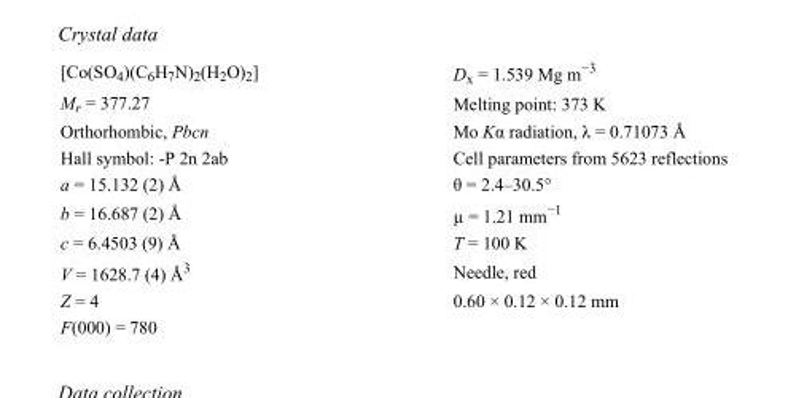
<table><tbody><tr><td>[Co(SO<sub>4</sub>)(C<sub>6</sub>H<sub>7</sub>N)<sub>2</sub>(H<sub>2</sub>O)<sub>2</sub>]</td><td>D<sub>x</sub> = 1.539 Mg m<sup>−3</sup></td></tr><tr><td>M<sub>r</sub> = 377.27</td><td>Melting point: 373 K</td></tr><tr><td>Orthorhombic, Pbcn</td><td>Mo Kα radiation, λ = 0.71073 Å</td></tr><tr><td>Hall symbol: -P 2n 2ab</td><td>Cell parameters from 5623 reflections</td></tr><tr><td>a = 15.132 (2) Å</td><td>θ = 2.4–30.5°</td></tr><tr><td>b = 16.687 (2) Å</td><td>µ = 1.21 mm<sup>−1</sup></td></tr><tr><td>c = 6.4503 (9) Å</td><td>T = 100 K</td></tr><tr><td>V = 1628.7 (4) Å<sup>3</sup></td><td>Needle, red</td></tr><tr><td>Z = 4</td><td>0.60 × 0.12 × 0.12 mm</td></tr><tr><td>F(000) = 780</td><td></td></tr></tbody></table>